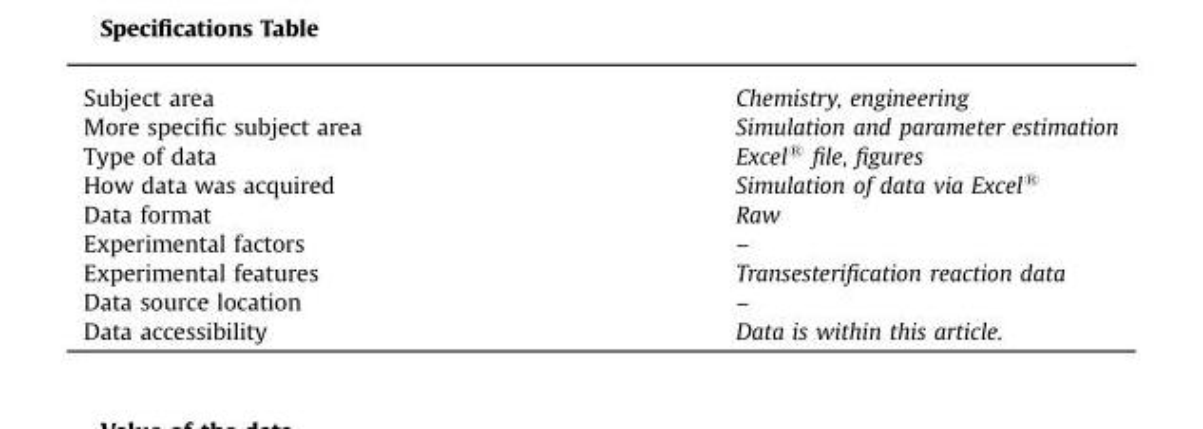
<table><tbody><tr><td>Subject area</td><td>Chemistry, engineering</td></tr><tr><td>More specific subject area</td><td>Simulation and parameter estimation</td></tr><tr><td>Type of data</td><td>Excel® file, figures</td></tr><tr><td>How data was acquired</td><td>Simulation of data via Excel®</td></tr><tr><td>Data format</td><td>Raw</td></tr><tr><td>Experimental factors</td><td>–</td></tr><tr><td>Experimental features</td><td>Transesterification reaction data</td></tr><tr><td>Data source location</td><td>–</td></tr><tr><td>Data accessibility</td><td>Data is within this article.</td></tr></tbody></table>